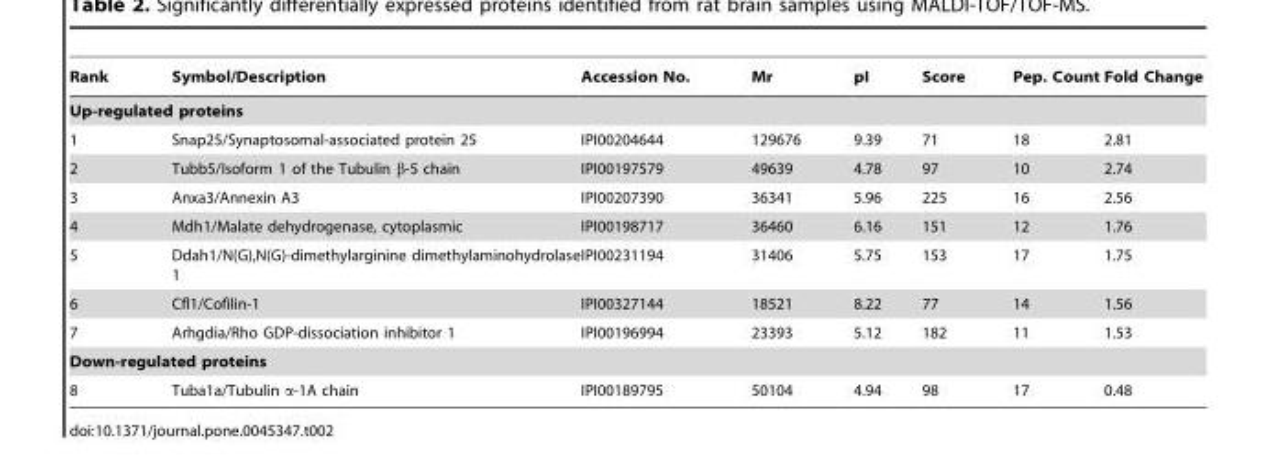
<table><thead><tr><td>Rank</td><td>Symbol/Description</td><td>Accession No.</td><td>Mr</td><td>pI</td><td>Score</td><td>Pep. Count</td><td>Fold Change</td></tr></thead><tbody><tr><td colspan="8">Up-regulated proteins</td></tr><tr><td>1</td><td>Snap25/Synaptosomal-associated protein 25</td><td>IPI00204644</td><td>129676</td><td>9.39</td><td>71</td><td>18</td><td>2.81</td></tr><tr><td>2</td><td>Tubb5/Isoform 1 of the Tubulin β-5 chain</td><td>IPI00197579</td><td>49639</td><td>4.78</td><td>97</td><td>10</td><td>2.74</td></tr><tr><td>3</td><td>Anxa3/Annexin A3</td><td>IPI00207390</td><td>36341</td><td>5.96</td><td>225</td><td>16</td><td>2.56</td></tr><tr><td>4</td><td>Mdh1/Malate dehydrogenase, cytoplasmic</td><td>IPI00198717</td><td>36460</td><td>6.16</td><td>151</td><td>12</td><td>1.76</td></tr><tr><td>5</td><td>Ddah1/N(G),N(G)-dimethylarginine dimethylaminohydrolase 1</td><td>IPI00231194</td><td>31406</td><td>5.75</td><td>153</td><td>17</td><td>1.75</td></tr><tr><td>6</td><td>Cfl1/Cofilin-1</td><td>IPI00327144</td><td>18521</td><td>8.22</td><td>77</td><td>14</td><td>1.56</td></tr><tr><td>7</td><td>Arhgdia/Rho GDP-dissociation inhibitor 1</td><td>IPI00196994</td><td>23393</td><td>5.12</td><td>182</td><td>11</td><td>1.53</td></tr><tr><td colspan="8">Down-regulated proteins</td></tr><tr><td>8</td><td>Tuba1a/Tubulin α-1A chain</td><td>IPI00189795</td><td>50104</td><td>4.94</td><td>98</td><td>17</td><td>0.48</td></tr></tbody></table>